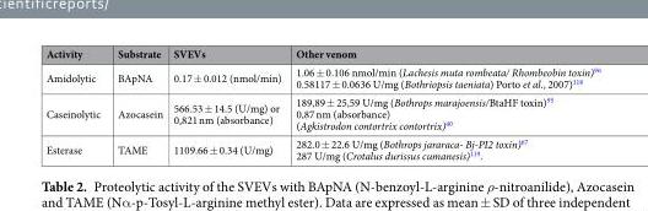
<table><thead><tr><td>Activity</td><td>Substrate</td><td>SVEVs</td><td>Other venom</td></tr></thead><tbody><tr><td>Amidolytic</td><td>BApNA</td><td>0.17 ± 0.012 (nmol/min)</td><td>1.06 ± 0.106 nmol/min (Lachesis muta rombeata/ Rhombeobin toxin)<sup>96</sup> 0.58117 ± 0.0636 U/mg (Bothriopsis taeniata) Porto et al., 2007)<sup>118</sup></td></tr><tr><td>Caseinolytic</td><td>Azocasein</td><td>566.53 ± 14.5 (U/mg) or 0,821 nm (absorbance)</td><td>189,89 ± 25,59 U/mg (Bothrops marajoensis/BtaHF toxin)<sup>95</sup> 0,87 nm (absorbance) (Agkistrodon contortrix contortrix)<sup>40</sup></td></tr><tr><td>Esterase</td><td>TAME</td><td>1109.66 ± 0.34 (U/mg)</td><td>282.0 ± 22.6 U/mg (Bothrops jararaca- Bj-PI2 toxin)<sup>67</sup> 287 U/mg (Crotalus durissus cumanesis)<sup>119</sup>.</td></tr></tbody></table>